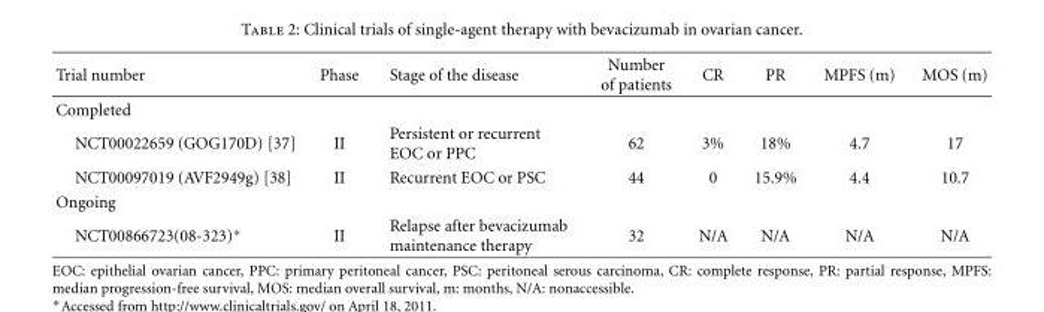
<table><thead><tr><td>Trial number</td><td>Phase</td><td>Stage of the disease</td><td>Number of patients</td><td>CR</td><td>PR</td><td>MPFS (m)</td><td>MOS (m)</td></tr></thead><tbody><tr><td colspan="8">Completed</td></tr><tr><td>NCT00022659 (GOG170D) [37]</td><td>II</td><td>Persistent or recurrent EOC or PPC</td><td>62</td><td>3%</td><td>18%</td><td>4.7</td><td>17</td></tr><tr><td>NCT00097019 (AVF2949g) [38]</td><td>II</td><td>Recurrent EOC or PSC</td><td>44</td><td>0</td><td>15.9%</td><td>4.4</td><td>10.7</td></tr><tr><td colspan="8">Ongoing</td></tr><tr><td>NCT00866723(08-323)∗</td><td>II</td><td>Relapse after bevacizumab maintenance therapy</td><td>32</td><td>N/A</td><td>N/A</td><td>N/A</td><td>N/A</td></tr></tbody></table>